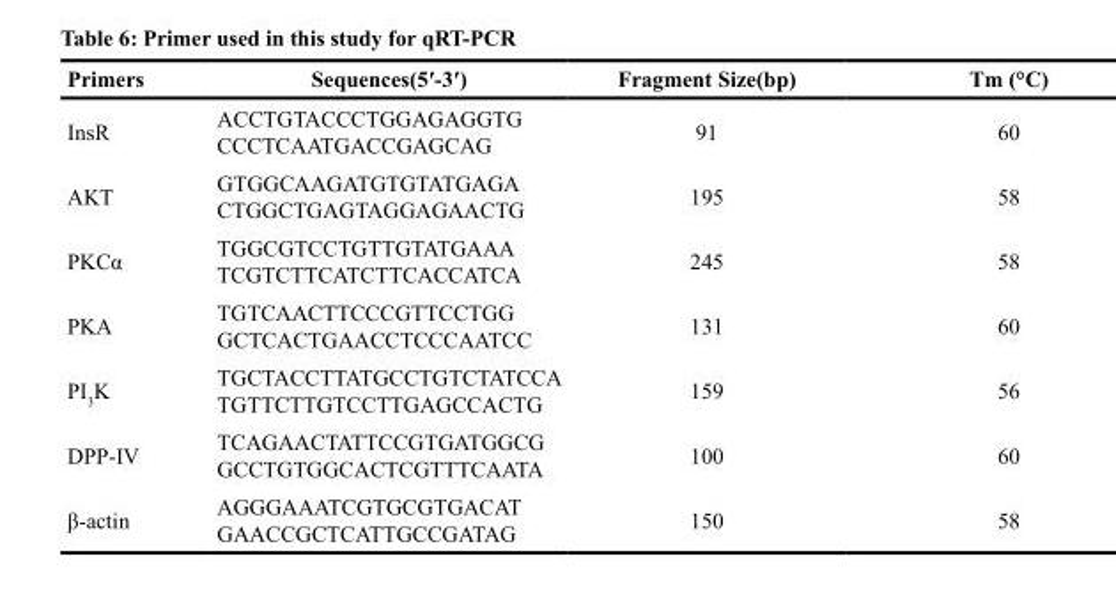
<table><thead><tr><td>Primers</td><td>Sequences(5′-3′)</td><td>Fragment Size(bp)</td><td>Tm (°C)</td></tr></thead><tbody><tr><td>InsR</td><td>ACCTGTACCCTGGAGAGGTG CCCTCAATGACCGAGCAG</td><td>91</td><td>60</td></tr><tr><td>AKT</td><td>GTGGCAAGATGTGTATGAGA CTGGCTGAGTAGGAGAACTG</td><td>195</td><td>58</td></tr><tr><td>PKCα</td><td>TGGCGTCCTGTTGTATGAAA TCGTCTTCATCTTCACCATCA</td><td>245</td><td>58</td></tr><tr><td>PKA</td><td>TGTCAACTTCCCGTTCCTGG GCTCACTGAACCTCCCAATCC</td><td>131</td><td>60</td></tr><tr><td>PI<sub>3</sub>K</td><td>TGCTACCTTATGCCTGTCTATCCA TGTTCTTGTCCTTGAGCCACTG</td><td>159</td><td>56</td></tr><tr><td>DPP-IV</td><td>TCAGAACTATTCCGTGATGGCG GCCTGTGGCACTCGTTTCAATA</td><td>100</td><td>60</td></tr><tr><td>β-actin</td><td>AGGGAAATCGTGCGTGACAT GAACCGCTCATTGCCGATAG</td><td>150</td><td>58</td></tr></tbody></table>